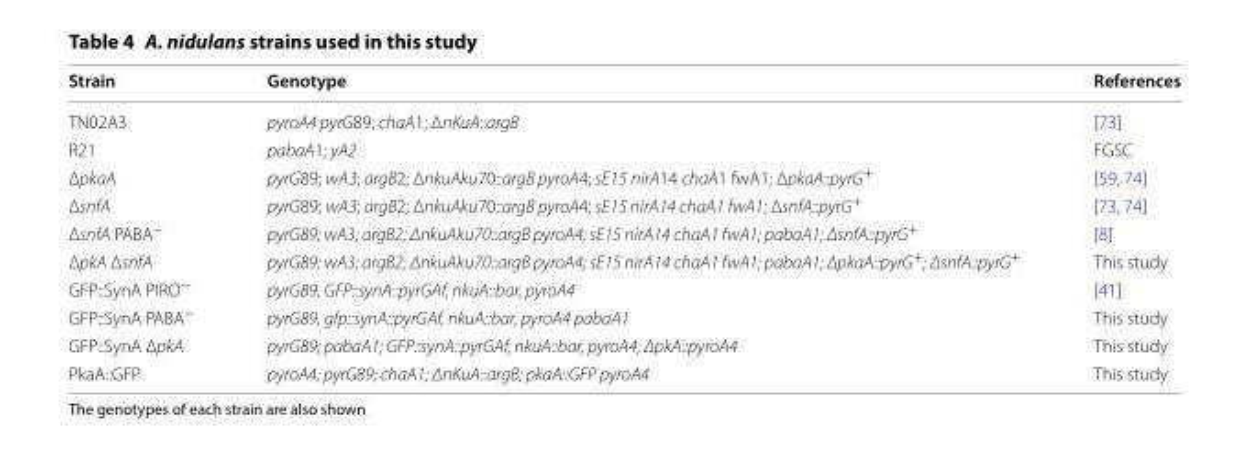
<table><thead><tr><td>Strain</td><td>Genotype</td><td>References</td></tr></thead><tbody><tr><td>TN02A3</td><td>pyroA4 pyrG89; chaA1; ΔnKuA::argB</td><td>[73]</td></tr><tr><td>R21</td><td>pabaA1; yA2</td><td>FGSC</td></tr><tr><td>ΔpkaA</td><td>pyrG89; wA3; argB2; ΔnkuAku70::argB pyroA4; sE15 nirA14 chaA1 fwA1; ΔpkaA::pyrG<sup>+</sup></td><td>[59, 74]</td></tr><tr><td>ΔsnfA</td><td>pyrG89; wA3; argB2; ΔnkuAku70::argB pyroA4; sE15 nirA14 chaA1 fwA1; ΔsnfA::pyrG<sup>+</sup></td><td>[73, 74]</td></tr><tr><td>ΔsnfA PABA<sup>−</sup></td><td>pyrG89; wA3; argB2; ΔnkuAku70::argB pyroA4; sE15 nirA14 chaA1 fwA1; pabaA1; ΔsnfA::pyrG<sup>+</sup></td><td>[8]</td></tr><tr><td>ΔpkA ΔsnfA</td><td>pyrG89; wA3; argB2; ΔnkuAku70::argB pyroA4; sE15 nirA14 chaA1 fwA1; pabaA1; ΔpkaA::pyrG<sup>+</sup>; ΔsnfA::pyrG<sup>+</sup></td><td>This study</td></tr><tr><td>GFP::SynA PIRO<sup>−</sup></td><td>pyrG89, GFP::synA::pyrGAf, nkuA::bar, pyroA4</td><td>[41]</td></tr><tr><td>GFP::SynA PABA<sup>−</sup></td><td>pyrG89, gfp::synA::pyrGAf, nkuA::bar, pyroA4 pabaA1</td><td>This study</td></tr><tr><td>GFP::SynA ΔpkA</td><td>pyrG89; pabaA1; GFP::synA::pyrGAf, nkuA::bar, pyroA4; ΔpkA::pyroA4</td><td>This study</td></tr><tr><td>PkaA::GFP</td><td>pyroA4; pyrG89; chaA1; ΔnKuA::argB; pkaA::GFP pyroA4</td><td>This study</td></tr></tbody></table>